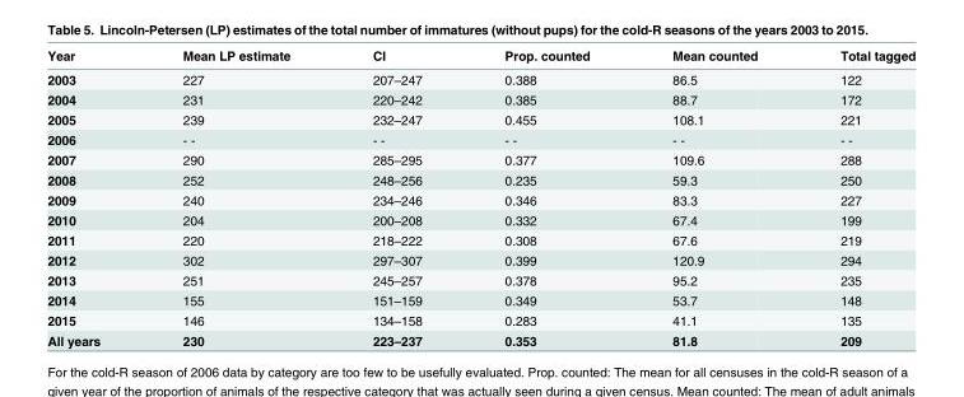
<table><thead><tr><td>Year</td><td>Mean LP estimate</td><td>CI</td><td>Prop. counted</td><td>Mean counted</td><td>Total tagged</td></tr></thead><tbody><tr><td>2003</td><td>227</td><td>207–247</td><td>0.388</td><td>86.5</td><td>122</td></tr><tr><td>2004</td><td>231</td><td>220–242</td><td>0.385</td><td>88.7</td><td>172</td></tr><tr><td>2005</td><td>239</td><td>232–247</td><td>0.455</td><td>108.1</td><td>221</td></tr><tr><td>2006</td><td>- -</td><td>- -</td><td>- -</td><td>- -</td><td>- -</td></tr><tr><td>2007</td><td>290</td><td>285–295</td><td>0.377</td><td>109.6</td><td>288</td></tr><tr><td>2008</td><td>252</td><td>248–256</td><td>0.235</td><td>59.3</td><td>250</td></tr><tr><td>2009</td><td>240</td><td>234–246</td><td>0.346</td><td>83.3</td><td>227</td></tr><tr><td>2010</td><td>204</td><td>200–208</td><td>0.332</td><td>67.4</td><td>199</td></tr><tr><td>2011</td><td>220</td><td>218–222</td><td>0.308</td><td>67.6</td><td>219</td></tr><tr><td>2012</td><td>302</td><td>297–307</td><td>0.399</td><td>120.9</td><td>294</td></tr><tr><td>2013</td><td>251</td><td>245–257</td><td>0.378</td><td>95.2</td><td>235</td></tr><tr><td>2014</td><td>155</td><td>151–159</td><td>0.349</td><td>53.7</td><td>148</td></tr><tr><td>2015</td><td>146</td><td>134–158</td><td>0.283</td><td>41.1</td><td>135</td></tr><tr><td>All years</td><td>230</td><td>223–237</td><td>0.353</td><td>81.8</td><td>209</td></tr></tbody></table>